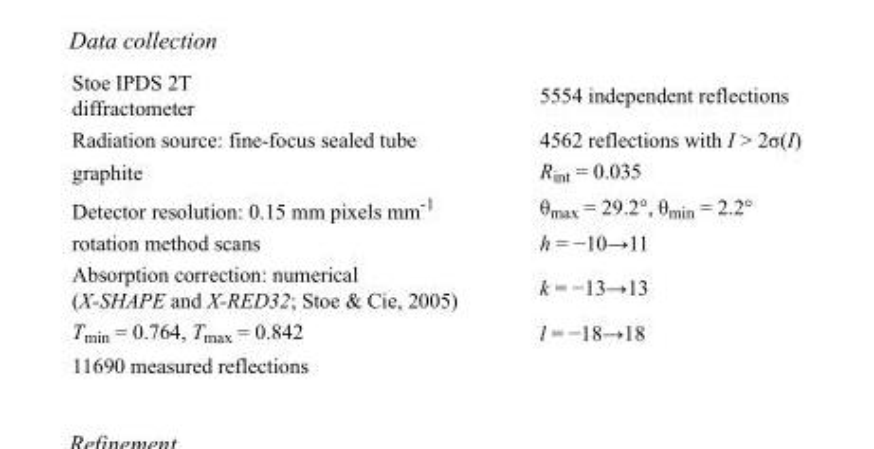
<table><tbody><tr><td>Stoe IPDS 2T diffractometer</td><td>5554 independent reflections</td></tr><tr><td>Radiation source: fine-focus sealed tube</td><td>4562 reflections with I &gt; 2σ(I)</td></tr><tr><td>graphite</td><td>R<sub>int</sub> = 0.035</td></tr><tr><td>Detector resolution: 0.15 mm pixels mm<sup>-1</sup></td><td>θ<sub>max</sub> = 29.2°, θ<sub>min</sub> = 2.2°</td></tr><tr><td>rotation method scans</td><td>h = −10→11</td></tr><tr><td>Absorption correction: numerical (X-SHAPE and X-RED32; Stoe &amp; Cie, 2005)</td><td>k = −13→13</td></tr><tr><td>T<sub>min</sub> = 0.764, T<sub>max</sub> = 0.842</td><td>l = −18→18</td></tr><tr><td>11690 measured reflections</td><td></td></tr></tbody></table>